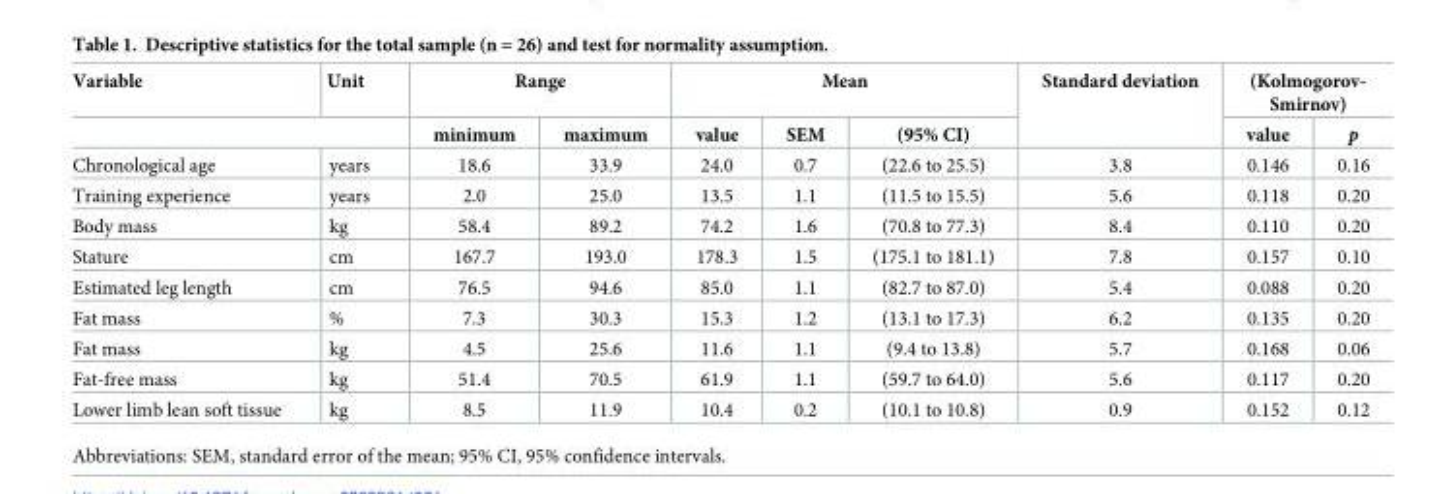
<table><thead><tr><td rowspan="2">Variable</td><td rowspan="2">Unit</td><td colspan="2">Range</td><td colspan="3">Mean</td><td rowspan="2">Standard deviation</td><td colspan="2">(Kolmogorov- Smirnov)</td></tr><tr><td>minimum</td><td>maximum</td><td>value</td><td>SEM</td><td>(95% CI)</td><td>value</td><td>p</td></tr></thead><tbody><tr><td>Chronological age</td><td>years</td><td>18.6</td><td>33.9</td><td>24.0</td><td>0.7</td><td>(22.6 to 25.5)</td><td>3.8</td><td>0.146</td><td>0.16</td></tr><tr><td>Training experience</td><td>years</td><td>2.0</td><td>25.0</td><td>13.5</td><td>1.1</td><td>(11.5 to 15.5)</td><td>5.6</td><td>0.118</td><td>0.20</td></tr><tr><td>Body mass</td><td>kg</td><td>58.4</td><td>89.2</td><td>74.2</td><td>1.6</td><td>(70.8 to 77.3)</td><td>8.4</td><td>0.110</td><td>0.20</td></tr><tr><td>Stature</td><td>cm</td><td>167.7</td><td>193.0</td><td>178.3</td><td>1.5</td><td>(175.1 to 181.1)</td><td>7.8</td><td>0.157</td><td>0.10</td></tr><tr><td>Estimated leg length</td><td>cm</td><td>76.5</td><td>94.6</td><td>85.0</td><td>1.1</td><td>(82.7 to 87.0)</td><td>5.4</td><td>0.088</td><td>0.20</td></tr><tr><td>Fat mass</td><td>%</td><td>7.3</td><td>30.3</td><td>15.3</td><td>1.2</td><td>(13.1 to 17.3)</td><td>6.2</td><td>0.135</td><td>0.20</td></tr><tr><td>Fat mass</td><td>kg</td><td>4.5</td><td>25.6</td><td>11.6</td><td>1.1</td><td>(9.4 to 13.8)</td><td>5.7</td><td>0.168</td><td>0.06</td></tr><tr><td>Fat-free mass</td><td>kg</td><td>51.4</td><td>70.5</td><td>61.9</td><td>1.1</td><td>(59.7 to 64.0)</td><td>5.6</td><td>0.117</td><td>0.20</td></tr><tr><td>Lower limb lean soft tissue</td><td>kg</td><td>8.5</td><td>11.9</td><td>10.4</td><td>0.2</td><td>(10.1 to 10.8)</td><td>0.9</td><td>0.152</td><td>0.12</td></tr></tbody></table>